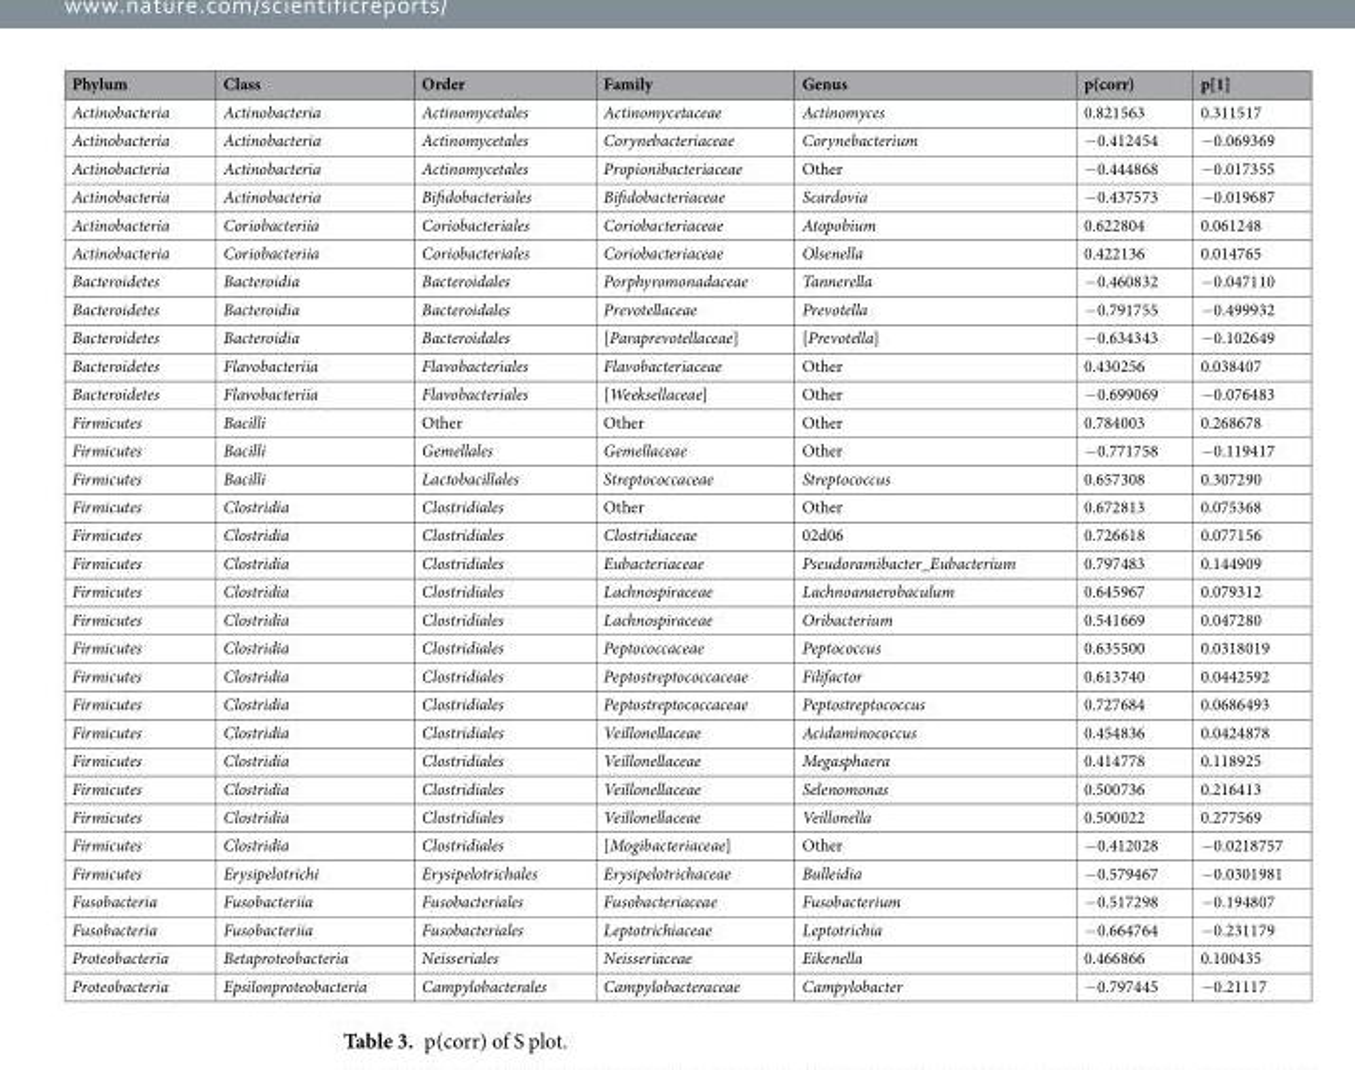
<table><thead><tr><td>Phylum</td><td>Class</td><td>Order</td><td>Family</td><td>Genus</td><td>p(corr)</td><td>p[1]</td></tr></thead><tbody><tr><td>Actinobacteria</td><td>Actinobacteria</td><td>Actinomycetales</td><td>Actinomycetaceae</td><td>Actinomyces</td><td>0.821563</td><td>0.311517</td></tr><tr><td>Actinobacteria</td><td>Actinobacteria</td><td>Actinomycetales</td><td>Corynebacteriaceae</td><td>Corynebacterium</td><td>−0.412454</td><td>−0.069369</td></tr><tr><td>Actinobacteria</td><td>Actinobacteria</td><td>Actinomycetales</td><td>Propionibacteriaceae</td><td>Other</td><td>−0.444868</td><td>−0.017355</td></tr><tr><td>Actinobacteria</td><td>Actinobacteria</td><td>Bifidobacteriales</td><td>Bifidobacteriaceae</td><td>Scardovia</td><td>−0.437573</td><td>−0.019687</td></tr><tr><td>Actinobacteria</td><td>Coriobacteriia</td><td>Coriobacteriales</td><td>Coriobacteriaceae</td><td>Atopobium</td><td>0.622804</td><td>0.061248</td></tr><tr><td>Actinobacteria</td><td>Coriobacteriia</td><td>Coriobacteriales</td><td>Coriobacteriaceae</td><td>Olsenella</td><td>0.422136</td><td>0.014765</td></tr><tr><td>Bacteroidetes</td><td>Bacteroidia</td><td>Bacteroidales</td><td>Porphyromonadaceae</td><td>Tannerella</td><td>−0.460832</td><td>−0.047110</td></tr><tr><td>Bacteroidetes</td><td>Bacteroidia</td><td>Bacteroidales</td><td>Prevotellaceae</td><td>Prevotella</td><td>−0.791755</td><td>−0.499932</td></tr><tr><td>Bacteroidetes</td><td>Bacteroidia</td><td>Bacteroidales</td><td>[Paraprevotellaceae]</td><td>[Prevotella]</td><td>−0.634343</td><td>−0.102649</td></tr><tr><td>Bacteroidetes</td><td>Flavobacteriia</td><td>Flavobacteriales</td><td>Flavobacteriaceae</td><td>Other</td><td>0.430256</td><td>0.038407</td></tr><tr><td>Bacteroidetes</td><td>Flavobacteriia</td><td>Flavobacteriales</td><td>[Weeksellaceae]</td><td>Other</td><td>−0.699069</td><td>−0.076483</td></tr><tr><td>Firmicutes</td><td>Bacilli</td><td>Other</td><td>Other</td><td>Other</td><td>0.784003</td><td>0.268678</td></tr><tr><td>Firmicutes</td><td>Bacilli</td><td>Gemellales</td><td>Gemellaceae</td><td>Other</td><td>−0.771758</td><td>−0.119417</td></tr><tr><td>Firmicutes</td><td>Bacilli</td><td>Lactobacillales</td><td>Streptococcaceae</td><td>Streptococcus</td><td>0.657308</td><td>0.307290</td></tr><tr><td>Firmicutes</td><td>Clostridia</td><td>Clostridiales</td><td>Other</td><td>Other</td><td>0.672813</td><td>0.075368</td></tr><tr><td>Firmicutes</td><td>Clostridia</td><td>Clostridiales</td><td>Clostridiaceae</td><td>02d06</td><td>0.726618</td><td>0.077156</td></tr><tr><td>Firmicutes</td><td>Clostridia</td><td>Clostridiales</td><td>Eubacteriaceae</td><td>Pseudoramibacter_Eubacterium</td><td>0.797483</td><td>0.144909</td></tr><tr><td>Firmicutes</td><td>Clostridia</td><td>Clostridiales</td><td>Lachnospiraceae</td><td>Lachnoanaerobaculum</td><td>0.645967</td><td>0.079312</td></tr><tr><td>Firmicutes</td><td>Clostridia</td><td>Clostridiales</td><td>Lachnospiraceae</td><td>Oribacterium</td><td>0.541669</td><td>0.047280</td></tr><tr><td>Firmicutes</td><td>Clostridia</td><td>Clostridiales</td><td>Peptococcaceae</td><td>Peptococcus</td><td>0.635500</td><td>0.0318019</td></tr><tr><td>Firmicutes</td><td>Clostridia</td><td>Clostridiales</td><td>Peptostreptococcaceae</td><td>Filifactor</td><td>0.613740</td><td>0.0442592</td></tr><tr><td>Firmicutes</td><td>Clostridia</td><td>Clostridiales</td><td>Peptostreptococcaceae</td><td>Peptostreptococcus</td><td>0.727684</td><td>0.0686493</td></tr><tr><td>Firmicutes</td><td>Clostridia</td><td>Clostridiales</td><td>Veillonellaceae</td><td>Acidaminococcus</td><td>0.454836</td><td>0.0424878</td></tr><tr><td>Firmicutes</td><td>Clostridia</td><td>Clostridiales</td><td>Veillonellaceae</td><td>Megasphaera</td><td>0.414778</td><td>0.118925</td></tr><tr><td>Firmicutes</td><td>Clostridia</td><td>Clostridiales</td><td>Veillonellaceae</td><td>Selenomonas</td><td>0.500736</td><td>0.216413</td></tr><tr><td>Firmicutes</td><td>Clostridia</td><td>Clostridiales</td><td>Veillonellaceae</td><td>Veillonella</td><td>0.500022</td><td>0.277569</td></tr><tr><td>Firmicutes</td><td>Clostridia</td><td>Clostridiales</td><td>[Mogibacteriaceae]</td><td>Other</td><td>−0.412028</td><td>−0.0218757</td></tr><tr><td>Firmicutes</td><td>Erysipelotrichi</td><td>Erysipelotrichales</td><td>Erysipelotrichaceae</td><td>Bulleidia</td><td>−0.579467</td><td>−0.0301981</td></tr><tr><td>Fusobacteria</td><td>Fusobacteriia</td><td>Fusobacteriales</td><td>Fusobacteriaceae</td><td>Fusobacterium</td><td>−0.517298</td><td>−0.194807</td></tr><tr><td>Fusobacteria</td><td>Fusobacteriia</td><td>Fusobacteriales</td><td>Leptotrichiaceae</td><td>Leptotrichia</td><td>−0.664764</td><td>−0.231179</td></tr><tr><td>Proteobacteria</td><td>Betaproteobacteria</td><td>Neisseriales</td><td>Neisseriaceae</td><td>Eikenella</td><td>0.466866</td><td>0.100435</td></tr><tr><td>Proteobacteria</td><td>Epsilonproteobacteria</td><td>Campylobacterales</td><td>Campylobacteraceae</td><td>Campylobacter</td><td>−0.797445</td><td>−0.21117</td></tr></tbody></table>